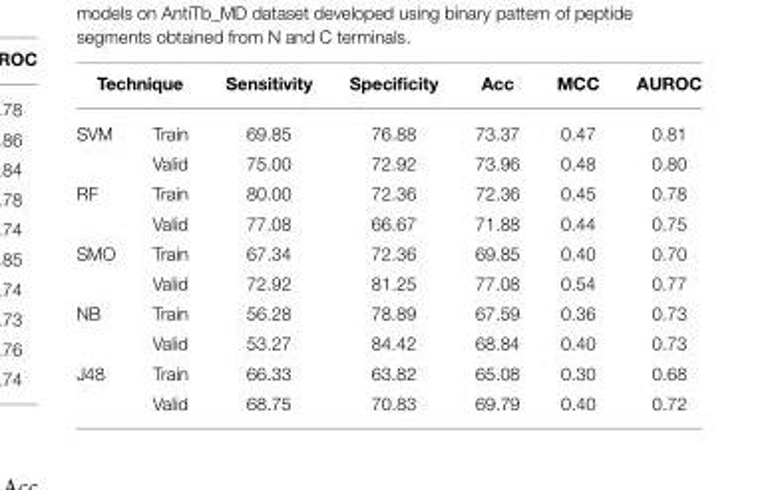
<table><thead><tr><td colspan="2">Technique</td><td rowspan="2">Sensitivity 69.85</td><td rowspan="2">Specificity 76.88</td><td rowspan="2">Acc 73.37</td><td rowspan="2">MCC 0.47</td><td rowspan="2">AUROC 0.81</td></tr><tr><td>SVM</td><td>Train</td></tr></thead><tbody><tr><td></td><td>Valid</td><td>75.00</td><td>72.92</td><td>73.96</td><td>0.48</td><td>0.80</td></tr><tr><td rowspan="2">RF</td><td>Train</td><td>80.00</td><td>72.36</td><td>72.36</td><td>0.45</td><td>0.78</td></tr><tr><td>Valid</td><td>77.08</td><td>66.67</td><td>71.88</td><td>0.44</td><td>0.75</td></tr><tr><td rowspan="2">SMO</td><td>Train</td><td>67.34</td><td>72.36</td><td>69.85</td><td>0.40</td><td>0.70</td></tr><tr><td>Valid</td><td>72.92</td><td>81.25</td><td>77.08</td><td>0.54</td><td>0.77</td></tr><tr><td rowspan="2">NB</td><td>Train</td><td>56.28</td><td>78.89</td><td>67.59</td><td>0.36</td><td>0.73</td></tr><tr><td>Valid</td><td>53.27</td><td>84.42</td><td>68.84</td><td>0.40</td><td>0.73</td></tr><tr><td rowspan="2">J48</td><td>Train</td><td>66.33</td><td>63.82</td><td>65.08</td><td>0.30</td><td>0.68</td></tr><tr><td>Valid</td><td>68.75</td><td>70.83</td><td>69.79</td><td>0.40</td><td>0.72</td></tr></tbody></table>